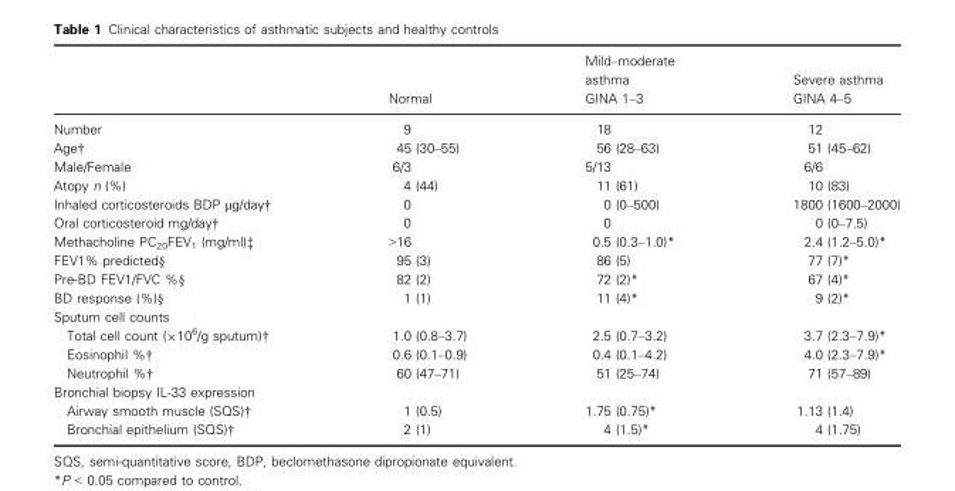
<table><thead><tr><td></td><td>Normal</td><td>Mild–moderate asthma GINA 1–3</td><td>Severe asthma GINA 4–5</td></tr></thead><tbody><tr><td>Number</td><td>9</td><td>18</td><td>12</td></tr><tr><td>Age†</td><td>45 (30–55)</td><td>56 (28–63)</td><td>51 (45–62)</td></tr><tr><td>Male/Female</td><td>6/3</td><td>5/13</td><td>6/6</td></tr><tr><td>Atopy n (%)</td><td>4 (44)</td><td>11 (61)</td><td>10 (83)</td></tr><tr><td>Inhaled corticosteroids BDP μg/day†</td><td>0</td><td>0 (0–500)</td><td>1800 (1600–2000)</td></tr><tr><td>Oral corticosteroid mg/day†</td><td>0</td><td>0</td><td>0 (0–7.5)</td></tr><tr><td>Methacholine PC<sub>20</sub>FEV<sub>1</sub> (mg/ml)‡</td><td>&gt;16</td><td>0.5 (0.3–1.0)*</td><td>2.4 (1.2–5.0)*</td></tr><tr><td>FEV1% predicted§</td><td>95 (3)</td><td>86 (5)</td><td>77 (7)*</td></tr><tr><td>Pre-BD FEV1/FVC %§</td><td>82 (2)</td><td>72 (2)*</td><td>67 (4)*</td></tr><tr><td>BD response (%)§</td><td>1 (1)</td><td>11 (4)*</td><td>9 (2)*</td></tr><tr><td colspan="4">Sputum cell counts</td></tr><tr><td>Total cell count (×10<sup>6</sup>/g sputum)†</td><td>1.0 (0.8–3.7)</td><td>2.5 (0.7–3.2)</td><td>3.7 (2.3–7.9)*</td></tr><tr><td>Eosinophil %†</td><td>0.6 (0.1–0.9)</td><td>0.4 (0.1–4.2)</td><td>4.0 (2.3–7.9)*</td></tr><tr><td>Neutrophil %†</td><td>60 (47–71)</td><td>51 (25–74)</td><td>71 (57–89)</td></tr><tr><td colspan="4">Bronchial biopsy IL-33 expression</td></tr><tr><td>Airway smooth muscle (SQS)†</td><td>1 (0.5)</td><td>1.75 (0.75)*</td><td>1.13 (1.4)</td></tr><tr><td>Bronchial epithelium (SQS)†</td><td>2 (1)</td><td>4 (1.5)*</td><td>4 (1.75)</td></tr></tbody></table>